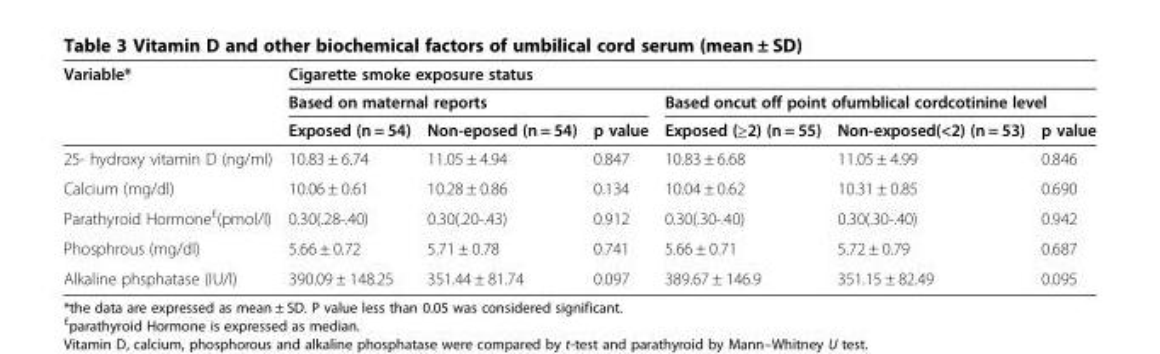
<table><thead><tr><td rowspan="3">Variable*</td><td colspan="6">Cigarette smoke exposure status</td></tr><tr><td colspan="3">Based on maternal reports</td><td colspan="3">Based oncut off point ofumblical cordcotinine level</td></tr><tr><td>Exposed (n = 54)</td><td>Non-eposed (n = 54)</td><td>p value</td><td>Exposed (≥2) (n = 55)</td><td>Non-exposed(&lt;2) (n = 53)</td><td>p value</td></tr></thead><tbody><tr><td>25- hydroxy vitamin D (ng/ml)</td><td>10.83 ± 6.74</td><td>11.05 ± 4.94</td><td>0.847</td><td>10.83 ± 6.68</td><td>11.05 ± 4.99</td><td>0.846</td></tr><tr><td>Calcium (mg/dl)</td><td>10.06 ± 0.61</td><td>10.28 ± 0.86</td><td>0.134</td><td>10.04 ± 0.62</td><td>10.31 ± 0.85</td><td>0.690</td></tr><tr><td>Parathyroid Hormone<sup>£</sup>(pmol/l)</td><td>0.30(.28-.40)</td><td>0.30(.20-.43)</td><td>0.912</td><td>0.30(.30-.40)</td><td>0.30(.30-.40)</td><td>0.942</td></tr><tr><td>Phosphrous (mg/dl)</td><td>5.66 ± 0.72</td><td>5.71 ± 0.78</td><td>0.741</td><td>5.66 ± 0.71</td><td>5.72 ± 0.79</td><td>0.687</td></tr><tr><td>Alkaline phsphatase (IU/l)</td><td>390.09 ± 148.25</td><td>351.44 ± 81.74</td><td>0.097</td><td>389.67 ± 146.9</td><td>351.15 ± 82.49</td><td>0.095</td></tr></tbody></table>